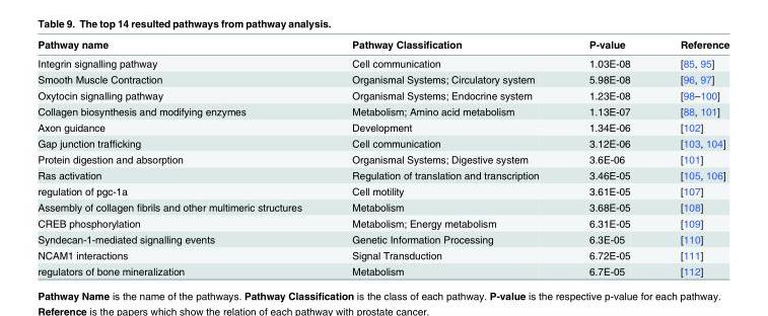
<table><thead><tr><td>Pathway name</td><td>Pathway Classification</td><td>P-value</td><td>Reference</td></tr></thead><tbody><tr><td>Integrin signalling pathway</td><td>Cell communication</td><td>1.03E-08</td><td>[85, 95]</td></tr><tr><td>Smooth Muscle Contraction</td><td>Organismal Systems; Circulatory system</td><td>5.98E-08</td><td>[96, 97]</td></tr><tr><td>Oxytocin signalling pathway</td><td>Organismal Systems; Endocrine system</td><td>1.23E-08</td><td>[98–100]</td></tr><tr><td>Collagen biosynthesis and modifying enzymes</td><td>Metabolism; Amino acid metabolism</td><td>1.13E-07</td><td>[88, 101]</td></tr><tr><td>Axon guidance</td><td>Development</td><td>1.34E-06</td><td>[102]</td></tr><tr><td>Gap junction trafficking</td><td>Cell communication</td><td>3.12E-06</td><td>[103, 104]</td></tr><tr><td>Protein digestion and absorption</td><td>Organismal Systems; Digestive system</td><td>3.6E-06</td><td>[101]</td></tr><tr><td>Ras activation</td><td>Regulation of translation and transcription</td><td>3.46E-05</td><td>[105, 106]</td></tr><tr><td>regulation of pgc-1a</td><td>Cell motility</td><td>3.61E-05</td><td>[107]</td></tr><tr><td>Assembly of collagen fibrils and other multimeric structures</td><td>Metabolism</td><td>3.68E-05</td><td>[108]</td></tr><tr><td>CREB phosphorylation</td><td>Metabolism; Energy metabolism</td><td>6.31E-05</td><td>[109]</td></tr><tr><td>Syndecan-1-mediated signalling events</td><td>Genetic Information Processing</td><td>6.3E-05</td><td>[110]</td></tr><tr><td>NCAM1 interactions</td><td>Signal Transduction</td><td>6.72E-05</td><td>[111]</td></tr><tr><td>regulators of bone mineralization</td><td>Metabolism</td><td>6.7E-05</td><td>[112]</td></tr></tbody></table>